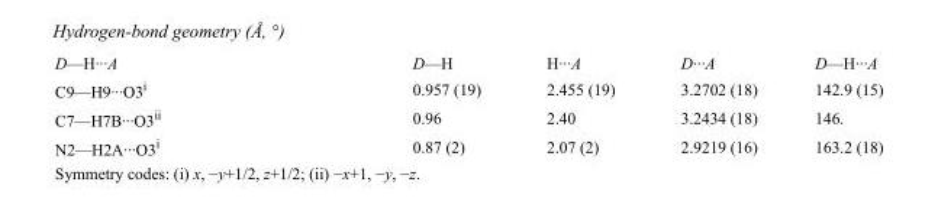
<table><tbody><tr><td>D—H···A</td><td>D—H</td><td>H···A</td><td>D···A</td><td>D—H···A</td></tr><tr><td>C9—H9···O3<sup>i</sup></td><td>0.957 (19)</td><td>2.455 (19)</td><td>3.2702 (18)</td><td>142.9 (15)</td></tr><tr><td>C7—H7B···O3<sup>ii</sup></td><td>0.96</td><td>2.40</td><td>3.2434 (18)</td><td>146.</td></tr><tr><td>N2—H2A···O3<sup>i</sup></td><td>0.87 (2)</td><td>2.07 (2)</td><td>2.9219 (16)</td><td>163.2 (18)</td></tr></tbody></table>